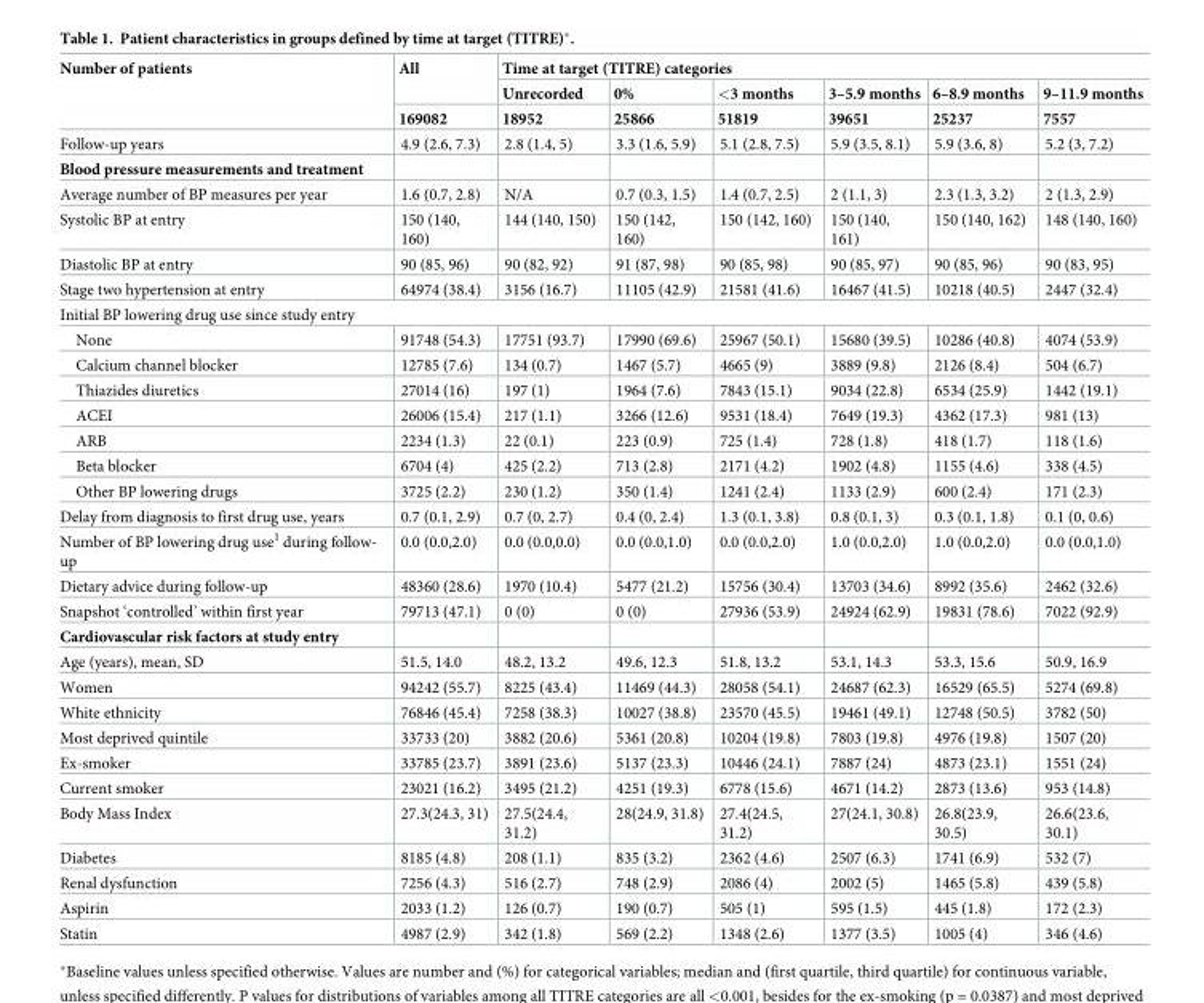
<table><thead><tr><td rowspan="3">Number of patients</td><td rowspan="3">All 169082</td><td colspan="6">Time at target (TITRE) categories</td></tr><tr><td rowspan="2">Unrecorded 18952</td><td rowspan="2">0% 25866</td><td rowspan="2">&lt;3 months 51819</td><td rowspan="2">3–5.9 months 39651</td><td rowspan="2">6–8.9 months 25237</td><td rowspan="2">9–11.9 months 7557</td></tr><tr></tr></thead><tbody><tr><td>Follow-up years</td><td>4.9 (2.6, 7.3)</td><td>2.8 (1.4, 5)</td><td>3.3 (1.6, 5.9)</td><td>5.1 (2.8, 7.5)</td><td>5.9 (3.5, 8.1)</td><td>5.9 (3.6, 8)</td><td>5.2 (3, 7.2)</td></tr><tr><td colspan="8">Blood pressure measurements and treatment</td></tr><tr><td>Average number of BP measures per year</td><td>1.6 (0.7, 2.8)</td><td>N/A</td><td>0.7 (0.3, 1.5)</td><td>1.4 (0.7, 2.5)</td><td>2 (1.1, 3)</td><td>2.3 (1.3, 3.2)</td><td>2 (1.3, 2.9)</td></tr><tr><td>Systolic BP at entry</td><td>150 (140, 160)</td><td>144 (140, 150)</td><td>150 (142, 160)</td><td>150 (142, 160)</td><td>150 (140, 161)</td><td>150 (140, 162)</td><td>148 (140, 160)</td></tr><tr><td>Diastolic BP at entry</td><td>90 (85, 96)</td><td>90 (82, 92)</td><td>91 (87, 98)</td><td>90 (85, 98)</td><td>90 (85, 97)</td><td>90 (85, 96)</td><td>90 (83, 95)</td></tr><tr><td>Stage two hypertension at entry</td><td>64974 (38.4)</td><td>3156 (16.7)</td><td>11105 (42.9)</td><td>21581 (41.6)</td><td>16467 (41.5)</td><td>10218 (40.5)</td><td>2447 (32.4)</td></tr><tr><td colspan="8">Initial BP lowering drug use since study entry</td></tr><tr><td>None</td><td>91748 (54.3)</td><td>17751 (93.7)</td><td>17990 (69.6)</td><td>25967 (50.1)</td><td>15680 (39.5)</td><td>10286 (40.8)</td><td>4074 (53.9)</td></tr><tr><td>Calcium channel blocker</td><td>12785 (7.6)</td><td>134 (0.7)</td><td>1467 (5.7)</td><td>4665 (9)</td><td>3889 (9.8)</td><td>2126 (8.4)</td><td>504 (6.7)</td></tr><tr><td>Thiazides diuretics</td><td>27014 (16)</td><td>197 (1)</td><td>1964 (7.6)</td><td>7843 (15.1)</td><td>9034 (22.8)</td><td>6534 (25.9)</td><td>1442 (19.1)</td></tr><tr><td>ACEI</td><td>26006 (15.4)</td><td>217 (1.1)</td><td>3266 (12.6)</td><td>9531 (18.4)</td><td>7649 (19.3)</td><td>4362 (17.3)</td><td>981 (13)</td></tr><tr><td>ARB</td><td>2234 (1.3)</td><td>22 (0.1)</td><td>223 (0.9)</td><td>725 (1.4)</td><td>728 (1.8)</td><td>418 (1.7)</td><td>118 (1.6)</td></tr><tr><td>Beta blocker</td><td>6704 (4)</td><td>425 (2.2)</td><td>713 (2.8)</td><td>2171 (4.2)</td><td>1902 (4.8)</td><td>1155 (4.6)</td><td>338 (4.5)</td></tr><tr><td>Other BP lowering drugs</td><td>3725 (2.2)</td><td>230 (1.2)</td><td>350 (1.4)</td><td>1241 (2.4)</td><td>1133 (2.9)</td><td>600 (2.4)</td><td>171 (2.3)</td></tr><tr><td>Delay from diagnosis to first drug use, years</td><td>0.7 (0.1, 2.9)</td><td>0.7 (0, 2.7)</td><td>0.4 (0, 2.4)</td><td>1.3 (0.1, 3.8)</td><td>0.8 (0.1, 3)</td><td>0.3 (0.1, 1.8)</td><td>0.1 (0, 0.6)</td></tr><tr><td>Number of BP lowering drug use<sup>1</sup> during follow- up</td><td>0.0 (0.0,2.0)</td><td>0.0 (0.0,0.0)</td><td>0.0 (0.0,1.0)</td><td>0.0 (0.0,2.0)</td><td>1.0 (0.0,2.0)</td><td>1.0 (0.0,2.0)</td><td>0.0 (0.0,1.0)</td></tr><tr><td>Dietary advice during follow-up</td><td>48360 (28.6)</td><td>1970 (10.4)</td><td>5477 (21.2)</td><td>15756 (30.4)</td><td>13703 (34.6)</td><td>8992 (35.6)</td><td>2462 (32.6)</td></tr><tr><td>Snapshot ‘controlled’ within first year</td><td>79713 (47.1)</td><td>0 (0)</td><td>0 (0)</td><td>27936 (53.9)</td><td>24924 (62.9)</td><td>19831 (78.6)</td><td>7022 (92.9)</td></tr><tr><td colspan="8">Cardiovascular risk factors at study entry</td></tr><tr><td>Age (years), mean, SD</td><td>51.5, 14.0</td><td>48.2, 13.2</td><td>49.6, 12.3</td><td>51.8, 13.2</td><td>53.1, 14.3</td><td>53.3, 15.6</td><td>50.9, 16.9</td></tr><tr><td>Women</td><td>94242 (55.7)</td><td>8225 (43.4)</td><td>11469 (44.3)</td><td>28058 (54.1)</td><td>24687 (62.3)</td><td>16529 (65.5)</td><td>5274 (69.8)</td></tr><tr><td>White ethnicity</td><td>76846 (45.4)</td><td>7258 (38.3)</td><td>10027 (38.8)</td><td>23570 (45.5)</td><td>19461 (49.1)</td><td>12748 (50.5)</td><td>3782 (50)</td></tr><tr><td>Most deprived quintile</td><td>33733 (20)</td><td>3882 (20.6)</td><td>5361 (20.8)</td><td>10204 (19.8)</td><td>7803 (19.8)</td><td>4976 (19.8)</td><td>1507 (20)</td></tr><tr><td>Ex-smoker</td><td>33785 (23.7)</td><td>3891 (23.6)</td><td>5137 (23.3)</td><td>10446 (24.1)</td><td>7887 (24)</td><td>4873 (23.1)</td><td>1551 (24)</td></tr><tr><td>Current smoker</td><td>23021 (16.2)</td><td>3495 (21.2)</td><td>4251 (19.3)</td><td>6778 (15.6)</td><td>4671 (14.2)</td><td>2873 (13.6)</td><td>953 (14.8)</td></tr><tr><td>Body Mass Index</td><td>27.3(24.3, 31)</td><td>27.5(24.4, 31.2)</td><td>28(24.9, 31.8)</td><td>27.4(24.5, 31.2)</td><td>27(24.1, 30.8)</td><td>26.8(23.9, 30.5)</td><td>26.6(23.6, 30.1)</td></tr><tr><td>Diabetes</td><td>8185 (4.8)</td><td>208 (1.1)</td><td>835 (3.2)</td><td>2362 (4.6)</td><td>2507 (6.3)</td><td>1741 (6.9)</td><td>532 (7)</td></tr><tr><td>Renal dysfunction</td><td>7256 (4.3)</td><td>516 (2.7)</td><td>748 (2.9)</td><td>2086 (4)</td><td>2002 (5)</td><td>1465 (5.8)</td><td>439 (5.8)</td></tr><tr><td>Aspirin</td><td>2033 (1.2)</td><td>126 (0.7)</td><td>190 (0.7)</td><td>505 (1)</td><td>595 (1.5)</td><td>445 (1.8)</td><td>172 (2.3)</td></tr><tr><td>Statin</td><td>4987 (2.9)</td><td>342 (1.8)</td><td>569 (2.2)</td><td>1348 (2.6)</td><td>1377 (3.5)</td><td>1005 (4)</td><td>346 (4.6)</td></tr></tbody></table>